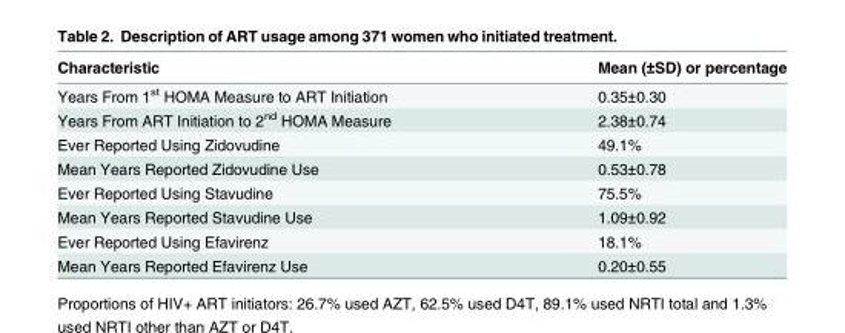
<table><thead><tr><td>Characteristic</td><td>Mean (±SD) or percentage</td></tr></thead><tbody><tr><td>Years From 1<sup>st</sup> HOMA Measure to ART Initiation</td><td>0.35±0.30</td></tr><tr><td>Years From ART Initiation to 2<sup>nd</sup> HOMA Measure</td><td>2.38±0.74</td></tr><tr><td>Ever Reported Using Zidovudine</td><td>49.1%</td></tr><tr><td>Mean Years Reported Zidovudine Use</td><td>0.53±0.78</td></tr><tr><td>Ever Reported Using Stavudine</td><td>75.5%</td></tr><tr><td>Mean Years Reported Stavudine Use</td><td>1.09±0.92</td></tr><tr><td>Ever Reported Using Efavirenz</td><td>18.1%</td></tr><tr><td>Mean Years Reported Efavirenz Use</td><td>0.20±0.55</td></tr></tbody></table>